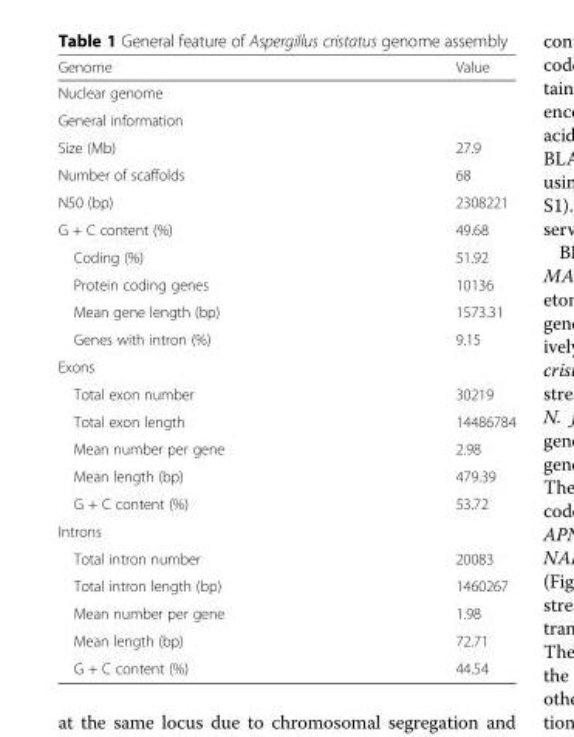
<table><thead><tr><td>Genome</td><td>Value</td></tr></thead><tbody><tr><td colspan="2">Nuclear genome</td></tr><tr><td colspan="2">General information</td></tr><tr><td>Size (Mb)</td><td>27.9</td></tr><tr><td>Number of scaffolds</td><td>68</td></tr><tr><td>N50 (bp)</td><td>2308221</td></tr><tr><td>G + C content (%)</td><td>49.68</td></tr><tr><td>Coding (%)</td><td>51.92</td></tr><tr><td>Protein coding genes</td><td>10136</td></tr><tr><td>Mean gene length (bp)</td><td>1573.31</td></tr><tr><td>Genes with intron (%)</td><td>9.15</td></tr><tr><td colspan="2">Exons</td></tr><tr><td>Total exon number</td><td>30219</td></tr><tr><td>Total exon length</td><td>14486784</td></tr><tr><td>Mean number per gene</td><td>2.98</td></tr><tr><td>Mean length (bp)</td><td>479.39</td></tr><tr><td>G + C content (%)</td><td>53.72</td></tr><tr><td colspan="2">Introns</td></tr><tr><td>Total intron number</td><td>20083</td></tr><tr><td>Total intron length (bp)</td><td>1460267</td></tr><tr><td>Mean number per gene</td><td>1.98</td></tr><tr><td>Mean length (bp)</td><td>72.71</td></tr><tr><td>G + C content (%)</td><td>44.54</td></tr></tbody></table>